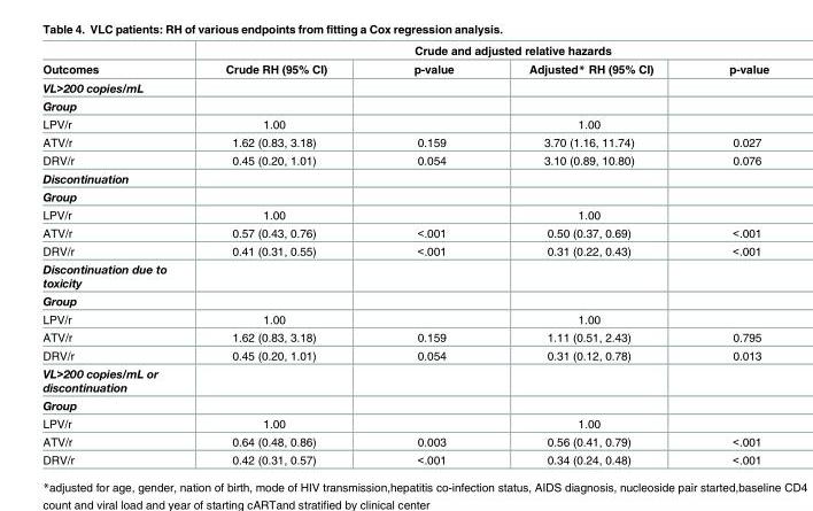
<table><thead><tr><td rowspan="2">Outcomes</td><td colspan="4">Crude and adjusted relative hazards</td></tr><tr><td>Crude RH (95% CI)</td><td>p-value</td><td>Adjusted* RH (95% CI)</td><td>p-value</td></tr></thead><tbody><tr><td colspan="5">VL&gt;200 copies/mL</td></tr><tr><td colspan="5">Group</td></tr><tr><td>LPV/r</td><td>1.00</td><td></td><td>1.00</td><td></td></tr><tr><td>ATV/r</td><td>1.62 (0.83, 3.18)</td><td>0.159</td><td>3.70 (1.16, 11.74)</td><td>0.027</td></tr><tr><td>DRV/r</td><td>0.45 (0.20, 1.01)</td><td>0.054</td><td>3.10 (0.89, 10.80)</td><td>0.076</td></tr><tr><td colspan="5">Discontinuation</td></tr><tr><td colspan="5">Group</td></tr><tr><td>LPV/r</td><td>1.00</td><td></td><td>1.00</td><td></td></tr><tr><td>ATV/r</td><td>0.57 (0.43, 0.76)</td><td>&lt;.001</td><td>0.50 (0.37, 0.69)</td><td>&lt;.001</td></tr><tr><td>DRV/r</td><td>0.41 (0.31, 0.55)</td><td>&lt;.001</td><td>0.31 (0.22, 0.43)</td><td>&lt;.001</td></tr><tr><td colspan="5">Discontinuation due to toxicity</td></tr><tr><td colspan="5">Group</td></tr><tr><td>LPV/r</td><td>1.00</td><td></td><td>1.00</td><td></td></tr><tr><td>ATV/r</td><td>1.62 (0.83, 3.18)</td><td>0.159</td><td>1.11 (0.51, 2.43)</td><td>0.795</td></tr><tr><td>DRV/r</td><td>0.45 (0.20, 1.01)</td><td>0.054</td><td>0.31 (0.12, 0.78)</td><td>0.013</td></tr><tr><td colspan="5">VL&gt;200 copies/mL or discontinuation</td></tr><tr><td colspan="5">Group</td></tr><tr><td>LPV/r</td><td>1.00</td><td></td><td>1.00</td><td></td></tr><tr><td>ATV/r</td><td>0.64 (0.48, 0.86)</td><td>0.003</td><td>0.56 (0.41, 0.79)</td><td>&lt;.001</td></tr><tr><td>DRV/r</td><td>0.42 (0.31, 0.57)</td><td>&lt;.001</td><td>0.34 (0.24, 0.48)</td><td>&lt;.001</td></tr></tbody></table>